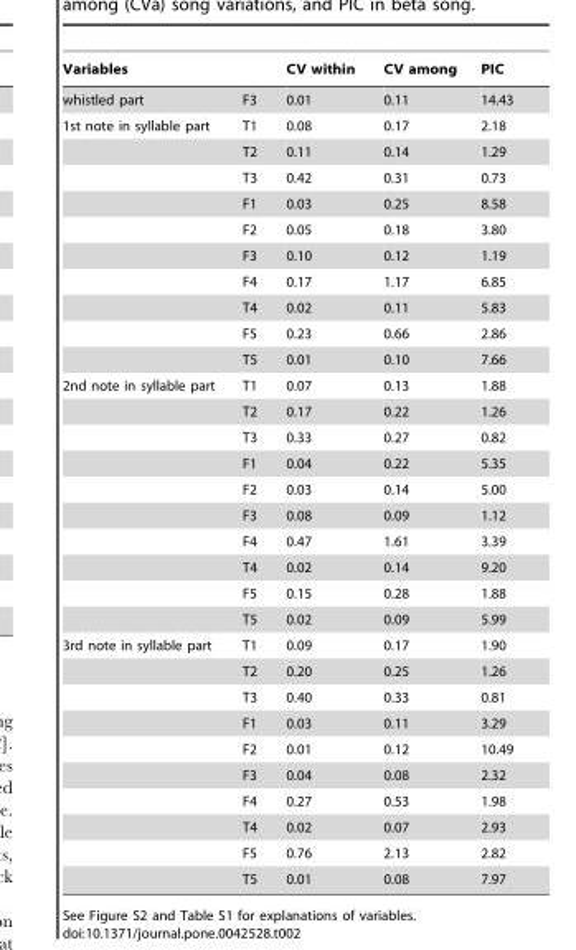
<table><thead><tr><td colspan="2">Variables</td><td rowspan="2">CV within 0.01</td><td rowspan="2">CV among 0.11</td><td rowspan="2">PIC 14.43</td></tr><tr><td>whistled part</td><td>F3</td></tr></thead><tbody><tr><td rowspan="10">1st note in syllable part</td><td>T1</td><td>0.08</td><td>0.17</td><td>2.18</td></tr><tr><td>T2</td><td>0.11</td><td>0.14</td><td>1.29</td></tr><tr><td>T3</td><td>0.42</td><td>0.31</td><td>0.73</td></tr><tr><td>F1</td><td>0.03</td><td>0.25</td><td>8.58</td></tr><tr><td>F2</td><td>0.05</td><td>0.18</td><td>3.80</td></tr><tr><td>F3</td><td>0.10</td><td>0.12</td><td>1.19</td></tr><tr><td>F4</td><td>0.17</td><td>1.17</td><td>6.85</td></tr><tr><td>T4</td><td>0.02</td><td>0.11</td><td>5.83</td></tr><tr><td>F5</td><td>0.23</td><td>0.66</td><td>2.86</td></tr><tr><td>T5</td><td>0.01</td><td>0.10</td><td>7.66</td></tr><tr><td rowspan="10">2nd note in syllable part</td><td>T1</td><td>0.07</td><td>0.13</td><td>1.88</td></tr><tr><td>T2</td><td>0.17</td><td>0.22</td><td>1.26</td></tr><tr><td>T3</td><td>0.33</td><td>0.27</td><td>0.82</td></tr><tr><td>F1</td><td>0.04</td><td>0.22</td><td>5.35</td></tr><tr><td>F2</td><td>0.03</td><td>0.14</td><td>5.00</td></tr><tr><td>F3</td><td>0.08</td><td>0.09</td><td>1.12</td></tr><tr><td>F4</td><td>0.47</td><td>1.61</td><td>3.39</td></tr><tr><td>T4</td><td>0.02</td><td>0.14</td><td>9.20</td></tr><tr><td>F5</td><td>0.15</td><td>0.28</td><td>1.88</td></tr><tr><td>T5</td><td>0.02</td><td>0.09</td><td>5.99</td></tr><tr><td rowspan="10">3rd note in syllable part</td><td>T1</td><td>0.09</td><td>0.17</td><td>1.90</td></tr><tr><td>T2</td><td>0.20</td><td>0.25</td><td>1.26</td></tr><tr><td>T3</td><td>0.40</td><td>0.33</td><td>0.81</td></tr><tr><td>F1</td><td>0.03</td><td>0.11</td><td>3.29</td></tr><tr><td>F2</td><td>0.01</td><td>0.12</td><td>10.49</td></tr><tr><td>F3</td><td>0.04</td><td>0.08</td><td>2.32</td></tr><tr><td>F4</td><td>0.27</td><td>0.53</td><td>1.98</td></tr><tr><td>T4</td><td>0.02</td><td>0.07</td><td>2.93</td></tr><tr><td>F5</td><td>0.76</td><td>2.13</td><td>2.82</td></tr><tr><td>T5</td><td>0.01</td><td>0.08</td><td>7.97</td></tr></tbody></table>